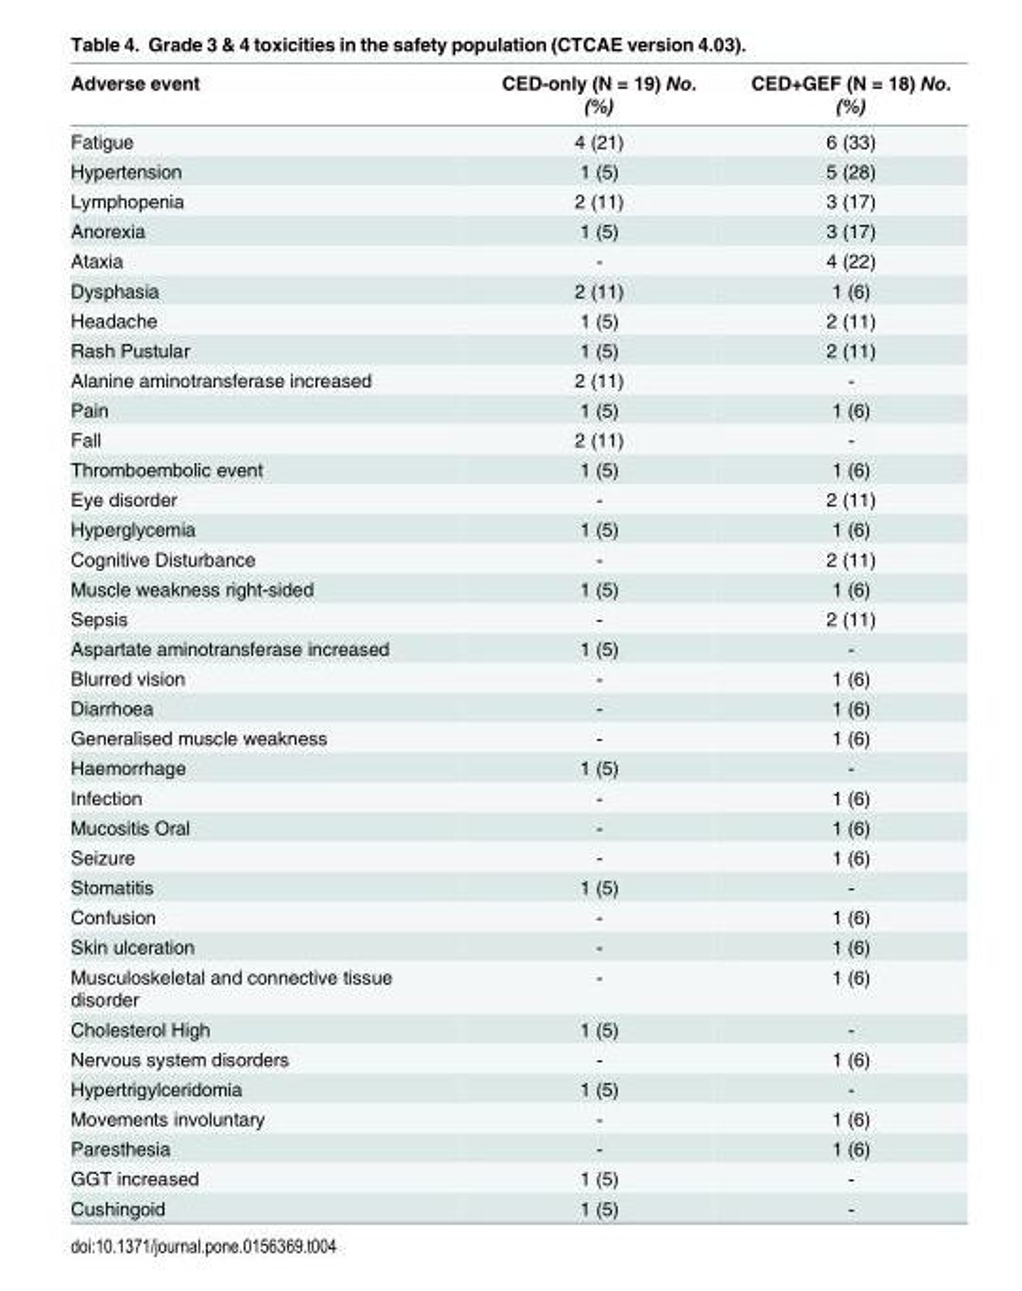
<table><thead><tr><td>Adverse event</td><td>CED-only (N = 19) No. (%)</td><td>CED+GEF (N = 18) No. (%)</td></tr></thead><tbody><tr><td>Fatigue</td><td>4 (21)</td><td>6 (33)</td></tr><tr><td>Hypertension</td><td>1 (5)</td><td>5 (28)</td></tr><tr><td>Lymphopenia</td><td>2 (11)</td><td>3 (17)</td></tr><tr><td>Anorexia</td><td>1 (5)</td><td>3 (17)</td></tr><tr><td>Ataxia</td><td>-</td><td>4 (22)</td></tr><tr><td>Dysphasia</td><td>2 (11)</td><td>1 (6)</td></tr><tr><td>Headache</td><td>1 (5)</td><td>2 (11)</td></tr><tr><td>Rash Pustular</td><td>1 (5)</td><td>2 (11)</td></tr><tr><td>Alanine aminotransferase increased</td><td>2 (11)</td><td>-</td></tr><tr><td>Pain</td><td>1 (5)</td><td>1 (6)</td></tr><tr><td>Fall</td><td>2 (11)</td><td>-</td></tr><tr><td>Thromboembolic event</td><td>1 (5)</td><td>1 (6)</td></tr><tr><td>Eye disorder</td><td>-</td><td>2 (11)</td></tr><tr><td>Hyperglycemia</td><td>1 (5)</td><td>1 (6)</td></tr><tr><td>Cognitive Disturbance</td><td>-</td><td>2 (11)</td></tr><tr><td>Muscle weakness right-sided</td><td>1 (5)</td><td>1 (6)</td></tr><tr><td>Sepsis</td><td>-</td><td>2 (11)</td></tr><tr><td>Aspartate aminotransferase increased</td><td>1 (5)</td><td>-</td></tr><tr><td>Blurred vision</td><td>-</td><td>1 (6)</td></tr><tr><td>Diarrhoea</td><td>-</td><td>1 (6)</td></tr><tr><td>Generalised muscle weakness</td><td>-</td><td>1 (6)</td></tr><tr><td>Haemorrhage</td><td>1 (5)</td><td>-</td></tr><tr><td>Infection</td><td>-</td><td>1 (6)</td></tr><tr><td>Mucositis Oral</td><td>-</td><td>1 (6)</td></tr><tr><td>Seizure</td><td>-</td><td>1 (6)</td></tr><tr><td>Stomatitis</td><td>1 (5)</td><td>-</td></tr><tr><td>Confusion</td><td>-</td><td>1 (6)</td></tr><tr><td>Skin ulceration</td><td>-</td><td>1 (6)</td></tr><tr><td>Musculoskeletal and connective tissue disorder</td><td>-</td><td>1 (6)</td></tr><tr><td>Cholesterol High</td><td>1 (5)</td><td>-</td></tr><tr><td>Nervous system disorders</td><td>-</td><td>1 (6)</td></tr><tr><td>Hypertrigylceridomia</td><td>1 (5)</td><td>-</td></tr><tr><td>Movements involuntary</td><td>-</td><td>1 (6)</td></tr><tr><td>Paresthesia</td><td>-</td><td>1 (6)</td></tr><tr><td>GGT increased</td><td>1 (5)</td><td>-</td></tr><tr><td>Cushingoid</td><td>1 (5)</td><td>-</td></tr></tbody></table>